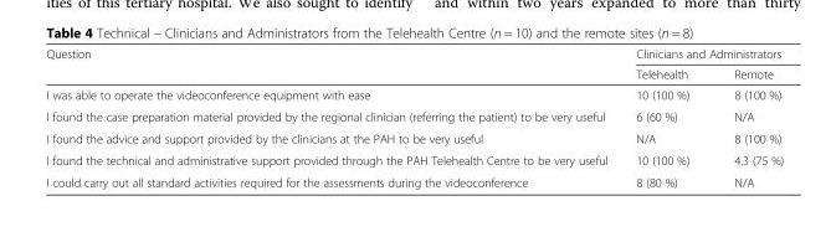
<table><thead><tr><td rowspan="2">Question</td><td colspan="2">Clinicians and Administrators</td></tr><tr><td>Telehealth</td><td>Remote</td></tr></thead><tbody><tr><td>I was able to operate the videoconference equipment with ease</td><td>10 (100 %)</td><td>8 (100 %)</td></tr><tr><td>I found the case preparation material provided by the regional clinician (referring the patient) to be very useful</td><td>6 (60 %)</td><td>N/A</td></tr><tr><td>I found the advice and support provided by the clinicians at the PAH to be very useful</td><td>N/A</td><td>8 (100 %)</td></tr><tr><td>I found the technical and administrative support provided through the PAH Telehealth Centre to be very useful</td><td>10 (100 %)</td><td>4.3 (75 %)</td></tr><tr><td>I could carry out all standard activities required for the assessments during the videoconference</td><td>8 (80 %)</td><td>N/A</td></tr></tbody></table>